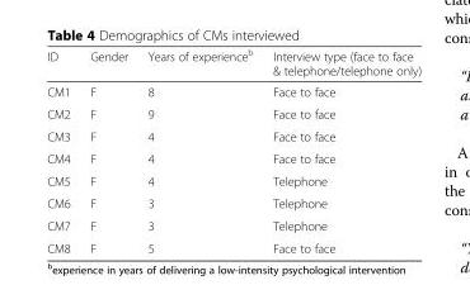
<table><thead><tr><td>ID</td><td>Gender</td><td>Years of experience<sup>b</sup></td><td>Interview type (face to face &amp; telephone/telephone only)</td></tr></thead><tbody><tr><td>CM1</td><td>F</td><td>8</td><td>Face to face</td></tr><tr><td>CM2</td><td>F</td><td>9</td><td>Face to face</td></tr><tr><td>CM3</td><td>F</td><td>4</td><td>Face to face</td></tr><tr><td>CM4</td><td>F</td><td>4</td><td>Face to face</td></tr><tr><td>CM5</td><td>F</td><td>4</td><td>Telephone</td></tr><tr><td>CM6</td><td>F</td><td>3</td><td>Telephone</td></tr><tr><td>CM7</td><td>F</td><td>3</td><td>Telephone</td></tr><tr><td>CM8</td><td>F</td><td>5</td><td>Face to face</td></tr></tbody></table>